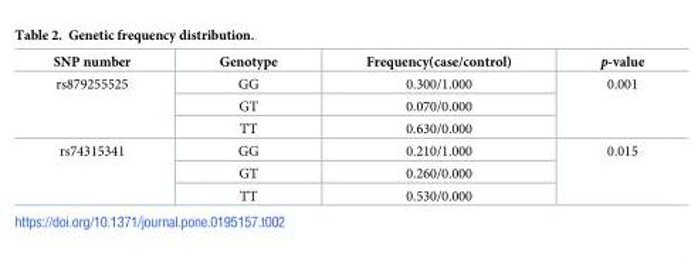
<table><thead><tr><td>SNP number</td><td>Genotype</td><td>Frequency(case/control)</td><td>p-value</td></tr></thead><tbody><tr><td rowspan="3">rs879255525</td><td>GG</td><td>0.300/1.000</td><td rowspan="3">0.001</td></tr><tr><td>GT</td><td>0.070/0.000</td></tr><tr><td>TT</td><td>0.630/0.000</td></tr><tr><td rowspan="3">rs74315341</td><td>GG</td><td>0.210/1.000</td><td rowspan="3">0.015</td></tr><tr><td>GT</td><td>0.260/0.000</td></tr><tr><td>TT</td><td>0.530/0.000</td></tr></tbody></table>